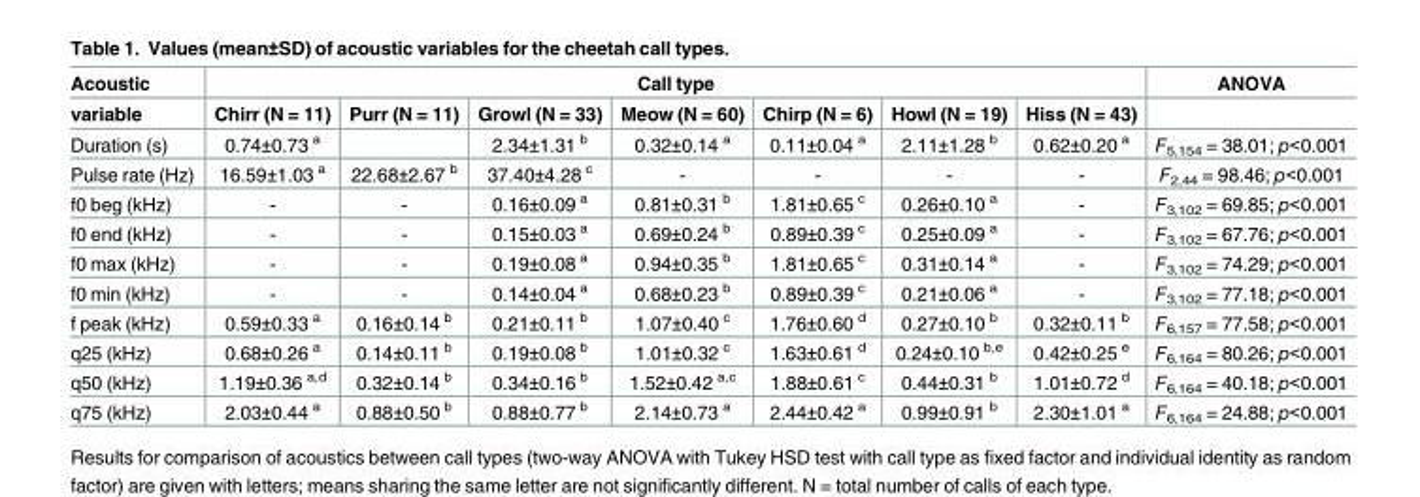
<table><thead><tr><td rowspan="2">Acoustic variable</td><td colspan="7">Call type</td><td rowspan="2">ANOVA</td></tr><tr><td>Chirr (N = 11)</td><td>Purr (N = 11)</td><td>Growl (N = 33)</td><td>Meow (N = 60)</td><td>Chirp (N = 6)</td><td>Howl (N = 19)</td><td>Hiss (N = 43)</td></tr></thead><tbody><tr><td>Duration (s)</td><td>0.74±0.73 <sup>a</sup></td><td></td><td>2.34±1.31 <sup>b</sup></td><td>0.32±0.14 <sup>a</sup></td><td>0.11±0.04 <sup>a</sup></td><td>2.11±1.28 <sup>b</sup></td><td>0.62±0.20 <sup>a</sup></td><td>F5,154 = 38.01; p&lt;0.001</td></tr><tr><td>Pulse rate (Hz)</td><td>16.59±1.03 <sup>a</sup></td><td>22.68±2.67 <sup>b</sup></td><td>37.40±4.28 <sup>c</sup></td><td>-</td><td>-</td><td>-</td><td>-</td><td>F2,44 = 98.46; p&lt;0.001</td></tr><tr><td>f0 beg (kHz)</td><td>-</td><td>-</td><td>0.16±0.09 <sup>a</sup></td><td>0.81±0.31 <sup>b</sup></td><td>1.81±0.65 <sup>c</sup></td><td>0.26±0.10 <sup>a</sup></td><td>-</td><td>F3,102 = 69.85; p&lt;0.001</td></tr><tr><td>f0 end (kHz)</td><td>-</td><td>-</td><td>0.15±0.03 <sup>a</sup></td><td>0.69±0.24 <sup>b</sup></td><td>0.89±0.39 <sup>c</sup></td><td>0.25±0.09 <sup>a</sup></td><td>-</td><td>F3,102 = 67.76; p&lt;0.001</td></tr><tr><td>f0 max (kHz)</td><td>-</td><td>-</td><td>0.19±0.08 <sup>a</sup></td><td>0.94±0.35 <sup>b</sup></td><td>1.81±0.65 <sup>c</sup></td><td>0.31±0.14 <sup>a</sup></td><td>-</td><td>F3,102 = 74.29; p&lt;0.001</td></tr><tr><td>f0 min (kHz)</td><td>-</td><td>-</td><td>0.14±0.04 <sup>a</sup></td><td>0.68±0.23 <sup>b</sup></td><td>0.89±0.39 <sup>c</sup></td><td>0.21±0.06 <sup>a</sup></td><td>-</td><td>F3,102 = 77.18; p&lt;0.001</td></tr><tr><td>f peak (kHz)</td><td>0.59±0.33 <sup>a</sup></td><td>0.16±0.14 <sup>b</sup></td><td>0.21±0.11 <sup>b</sup></td><td>1.07±0.40 <sup>c</sup></td><td>1.76±0.60 <sup>d</sup></td><td>0.27±0.10 <sup>b</sup></td><td>0.32±0.11 <sup>b</sup></td><td>F6,157 = 77.58; p&lt;0.001</td></tr><tr><td>q25 (kHz)</td><td>0.68±0.26 <sup>a</sup></td><td>0.14±0.11 <sup>b</sup></td><td>0.19±0.08 <sup>b</sup></td><td>1.01±0.32 <sup>c</sup></td><td>1.63±0.61 <sup>d</sup></td><td>0.24±0.10 <sup>b,e</sup></td><td>0.42±0.25 <sup>e</sup></td><td>F6,164 = 80.26; p&lt;0.001</td></tr><tr><td>q50 (kHz)</td><td>1.19±0.36 <sup>a,d</sup></td><td>0.32±0.14 <sup>b</sup></td><td>0.34±0.16 <sup>b</sup></td><td>1.52±0.42 <sup>a,c</sup></td><td>1.88±0.61 <sup>c</sup></td><td>0.44±0.31 <sup>b</sup></td><td>1.01±0.72 <sup>d</sup></td><td>F6,164 = 40.18; p&lt;0.001</td></tr><tr><td>q75 (kHz)</td><td>2.03±0.44 <sup>a</sup></td><td>0.88±0.50 <sup>b</sup></td><td>0.88±0.77 <sup>b</sup></td><td>2.14±0.73 <sup>a</sup></td><td>2.44±0.42 <sup>a</sup></td><td>0.99±0.91 <sup>b</sup></td><td>2.30±1.01 <sup>a</sup></td><td>F6,164 = 24.88; p&lt;0.001</td></tr></tbody></table>